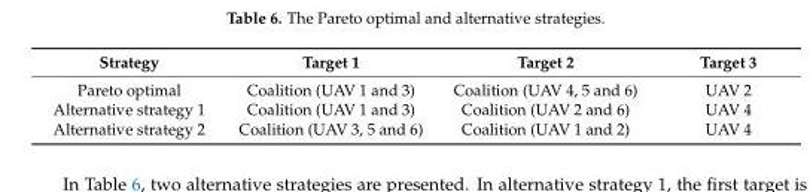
<table><thead><tr><td>Strategy</td><td>Target 1</td><td>Target 2</td><td>Target 3</td></tr></thead><tbody><tr><td>Pareto optimal</td><td>Coalition (UAV 1 and 3)</td><td>Coalition (UAV 4, 5 and 6)</td><td>UAV 2</td></tr><tr><td>Alternative strategy 1</td><td>Coalition (UAV 1 and 3)</td><td>Coalition (UAV 2 and 6)</td><td>UAV 4</td></tr><tr><td>Alternative strategy 2</td><td>Coalition (UAV 3, 5 and 6)</td><td>Coalition (UAV 1 and 2)</td><td>UAV 4</td></tr></tbody></table>